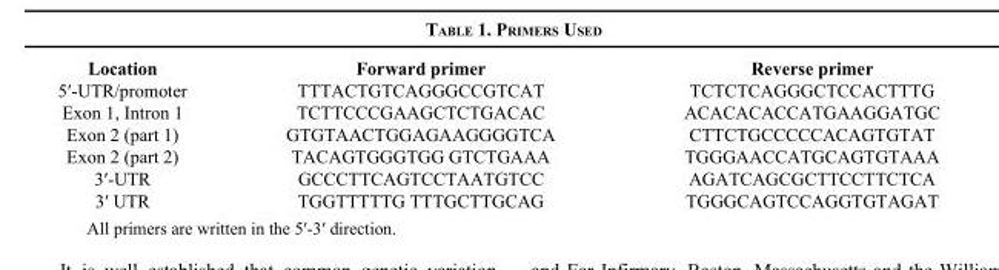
<table><thead><tr><td>Location</td><td>Forward primer</td><td>Reverse primer</td></tr></thead><tbody><tr><td>5′-UTR/promoter</td><td>TTTACTGTCAGGGCCGTCAT</td><td>TCTCTCAGGGCTCCACTTTG</td></tr><tr><td>Exon 1, Intron 1</td><td>TCTTCCCGAAGCTCTGACAC</td><td>ACACACACCATGAAGGATGC</td></tr><tr><td>Exon 2 (part 1)</td><td>GTGTAACTGGAGAAGGGGTCA</td><td>CTTCTGCCCCCACAGTGTAT</td></tr><tr><td>Exon 2 (part 2)</td><td>TACAGTGGGTGG GTCTGAAA</td><td>TGGGAACCATGCAGTGTAAA</td></tr><tr><td>3′-UTR</td><td>GCCCTTCAGTCCTAATGTCC</td><td>AGATCAGCGCTTCCTTCTCA</td></tr><tr><td>3′ UTR</td><td>TGGTTTTTG TTTGCTTGCAG</td><td>TGGGCAGTCCAGGTGTAGAT</td></tr></tbody></table>